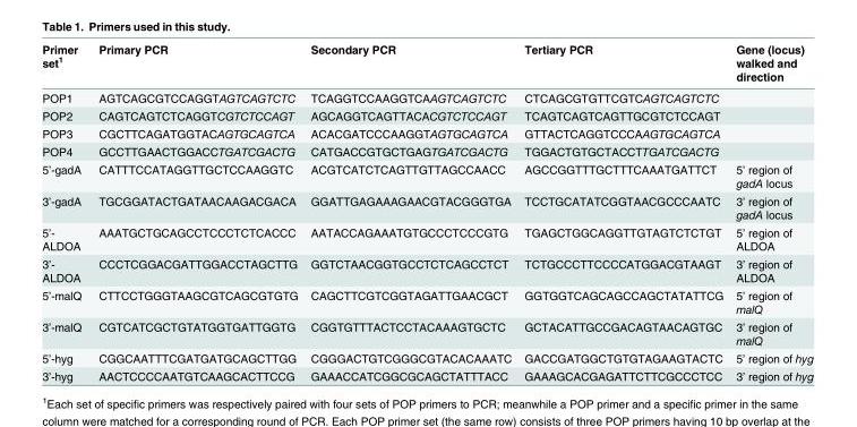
<table><thead><tr><td>Primer set<sup>1</sup></td><td>Primary PCR</td><td>Secondary PCR</td><td>Tertiary PCR</td><td>Gene (locus) walked and direction</td></tr></thead><tbody><tr><td>POP1</td><td>AGTCAGCGTCCAGGTAGTCAGTCTC</td><td>TCAGGTCCAAGGTCAAGTCAGTCTC</td><td>CTCAGCGTGTTCGTCAGTCAGTCTC</td><td></td></tr><tr><td>POP2</td><td>CAGTCAGTCTCAGGTCGTCTCCAGT</td><td>AGCAGGTCAGTTACACGTCTCCAGT</td><td>TCAGTCAGTCAGTTGCGTCTCCAGT</td><td></td></tr><tr><td>POP3</td><td>CGCTTCAGATGGTACAGTGCAGTCA</td><td>ACACGATCCCAAGGTAGTGCAGTCA</td><td>GTTACTCAGGTCCCAAGTGCAGTCA</td><td></td></tr><tr><td>POP4</td><td>GCCTTGAACTGGACCTGATCGACTG</td><td>CATGACCGTGCTGAGTGATCGACTG</td><td>TGGACTGTGCTACCTTGATCGACTG</td><td></td></tr><tr><td>5’-gadA</td><td>CATTTCCATAGGTTGCTCCAAGGTC</td><td>ACGTCATCTCAGTTGTTAGCCAACC</td><td>AGCCGGTTTGCTTTCAAATGATTCT</td><td>5’ region of gadA locus</td></tr><tr><td>3’-gadA</td><td>TGCGGATACTGATAACAAGACGACA</td><td>GGATTGAGAAAGAACGTACGGGTGA</td><td>TCCTGCATATCGGTAACGCCCAATC</td><td>3’ region of gadA locus</td></tr><tr><td>5’- ALDOA</td><td>AAATGCTGCAGCCTCCCTCTCACCC</td><td>AATACCAGAAATGTGCCCTCCCGTG</td><td>TGAGCTGGCAGGTTGTAGTCTCTGT</td><td>5’ region of ALDOA</td></tr><tr><td>3’- ALDOA</td><td>CCCTCGGACGATTGGACCTAGCTTG</td><td>GGTCTAACGGTGCCTCTCAGCCTCT</td><td>TCTGCCCTTCCCCATGGACGTAAGT</td><td>3’ region of ALDOA</td></tr><tr><td>5’-malQ</td><td>CTTCCTGGGTAAGCGTCAGCGTGTG</td><td>CAGCTTCGTCGGTAGATTGAACGCT</td><td>GGTGGTCAGCAGCCAGCTATATTCG</td><td>5’ region of malQ</td></tr><tr><td>3’-malQ</td><td>CGTCATCGCTGTATGGTGATTGGTG</td><td>CGGTGTTTACTCCTACAAAGTGCTC</td><td>GCTACATTGCCGACAGTAACAGTGC</td><td>3’ region of malQ</td></tr><tr><td>5’-hyg</td><td>CGGCAATTTCGATGATGCAGCTTGG</td><td>CGGGACTGTCGGGCGTACACAAATC</td><td>GACCGATGGCTGTGTAGAAGTACTC</td><td>5’ region of hyg</td></tr><tr><td>3’-hyg</td><td>AACTCCCCAATGTCAAGCACTTCCG</td><td>GAAACCATCGGCGCAGCTATTTACC</td><td>GAAAGCACGAGATTCTTCGCCCTCC</td><td>3’ region of hyg</td></tr></tbody></table>